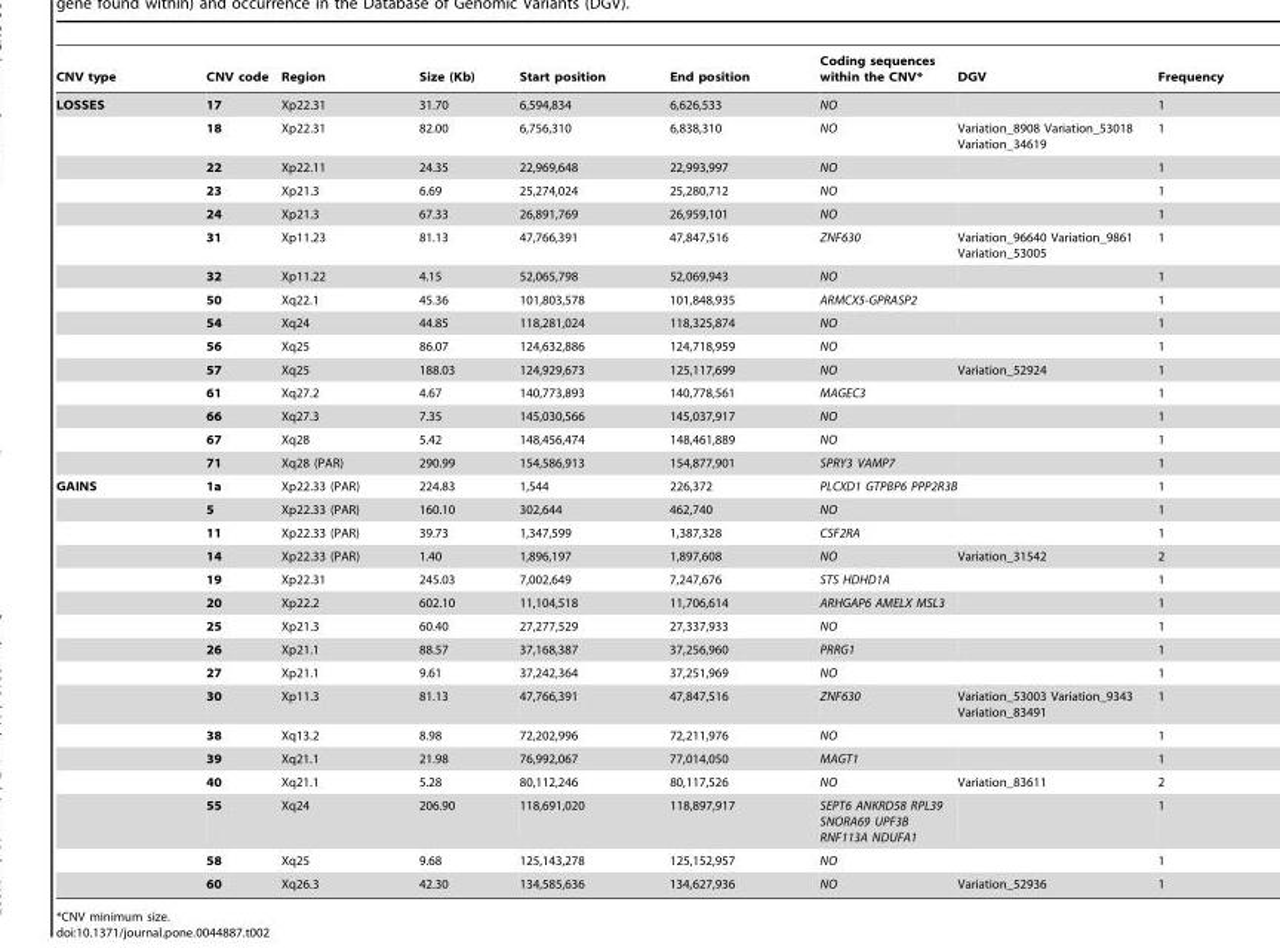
<table><thead><tr><td>CNV type</td><td>CNV code</td><td>Region</td><td>Size (Kb)</td><td>Start position</td><td>End position</td><td>Coding sequences within the CNV*</td><td>DGV</td><td>Frequency</td></tr></thead><tbody><tr><td rowspan="15">LOSSES</td><td>17</td><td>Xp22.31</td><td>31.70</td><td>6,594,834</td><td>6,626,533</td><td>NO</td><td></td><td>1</td></tr><tr><td>18</td><td>Xp22.31</td><td>82.00</td><td>6,756,310</td><td>6,838,310</td><td>NO</td><td>Variation_8908 Variation_53018 Variation_34619</td><td>1</td></tr><tr><td>22</td><td>Xp22.11</td><td>24.35</td><td>22,969,648</td><td>22,993,997</td><td>NO</td><td></td><td>1</td></tr><tr><td>23</td><td>Xp21.3</td><td>6.69</td><td>25,274,024</td><td>25,280,712</td><td>NO</td><td></td><td>1</td></tr><tr><td>24</td><td>Xp21.3</td><td>67.33</td><td>26,891,769</td><td>26,959,101</td><td>NO</td><td></td><td>1</td></tr><tr><td>31</td><td>Xp11.23</td><td>81.13</td><td>47,766,391</td><td>47,847,516</td><td>ZNF630</td><td>Variation_96640 Variation_9861 Variation_53005</td><td>1</td></tr><tr><td>32</td><td>Xp11.22</td><td>4.15</td><td>52,065,798</td><td>52,069,943</td><td>NO</td><td></td><td>1</td></tr><tr><td>50</td><td>Xq22.1</td><td>45.36</td><td>101,803,578</td><td>101,848,935</td><td>ARMCX5-GPRASP2</td><td></td><td>1</td></tr><tr><td>54</td><td>Xq24</td><td>44.85</td><td>118,281,024</td><td>118,325,874</td><td>NO</td><td></td><td>1</td></tr><tr><td>56</td><td>Xq25</td><td>86.07</td><td>124,632,886</td><td>124,718,959</td><td>NO</td><td></td><td>1</td></tr><tr><td>57</td><td>Xq25</td><td>188.03</td><td>124,929,673</td><td>125,117,699</td><td>NO</td><td>Variation_52924</td><td>1</td></tr><tr><td>61</td><td>Xq27.2</td><td>4.67</td><td>140,773,893</td><td>140,778,561</td><td>MAGEC3</td><td></td><td>1</td></tr><tr><td>66</td><td>Xq27.3</td><td>7.35</td><td>145,030,566</td><td>145,037,917</td><td>NO</td><td></td><td>1</td></tr><tr><td>67</td><td>Xq28</td><td>5.42</td><td>148,456,474</td><td>148,461,889</td><td>NO</td><td></td><td>1</td></tr><tr><td>71</td><td>Xq28 (PAR)</td><td>290.99</td><td>154,586,913</td><td>154,877,901</td><td>SPRY3 VAMP7</td><td></td><td>1</td></tr><tr><td rowspan="16">GAINS</td><td>1a</td><td>Xp22.33 (PAR)</td><td>224.83</td><td>1,544</td><td>226,372</td><td>PLCXD1 GTPBP6 PPP2R3B</td><td></td><td>1</td></tr><tr><td>5</td><td>Xp22.33 (PAR)</td><td>160.10</td><td>302,644</td><td>462,740</td><td>NO</td><td></td><td>1</td></tr><tr><td>11</td><td>Xp22.33 (PAR)</td><td>39.73</td><td>1,347,599</td><td>1,387,328</td><td>CSF2RA</td><td></td><td>1</td></tr><tr><td>14</td><td>Xp22.33 (PAR)</td><td>1.40</td><td>1,896,197</td><td>1,897,608</td><td>NO</td><td>Variation_31542</td><td>2</td></tr><tr><td>19</td><td>Xp22.31</td><td>245.03</td><td>7,002,649</td><td>7,247,676</td><td>STS HDHD1A</td><td></td><td>1</td></tr><tr><td>20</td><td>Xp22.2</td><td>602.10</td><td>11,104,518</td><td>11,706,614</td><td>ARHGAP6 AMELX MSL3</td><td></td><td>1</td></tr><tr><td>25</td><td>Xp21.3</td><td>60.40</td><td>27,277,529</td><td>27,337,933</td><td>NO</td><td></td><td>1</td></tr><tr><td>26</td><td>Xp21.1</td><td>88.57</td><td>37,168,387</td><td>37,256,960</td><td>PRRG1</td><td></td><td>1</td></tr><tr><td>27</td><td>Xp21.1</td><td>9.61</td><td>37,242,364</td><td>37,251,969</td><td>NO</td><td></td><td>1</td></tr><tr><td>30</td><td>Xp11.3</td><td>81.13</td><td>47,766,391</td><td>47,847,516</td><td>ZNF630</td><td>Variation_53003 Variation_9343 Variation_83491</td><td>1</td></tr><tr><td>38</td><td>Xq13.2</td><td>8.98</td><td>72,202,996</td><td>72,211,976</td><td>NO</td><td></td><td>1</td></tr><tr><td>39</td><td>Xq21.1</td><td>21.98</td><td>76,992,067</td><td>77,014,050</td><td>MAGT1</td><td></td><td>1</td></tr><tr><td>40</td><td>Xq21.1</td><td>5.28</td><td>80,112,246</td><td>80,117,526</td><td>NO</td><td>Variation_83611</td><td>2</td></tr><tr><td>55</td><td>Xq24</td><td>206.90</td><td>118,691,020</td><td>118,897,917</td><td>SEPT6 ANKRD58 RPL39 SNORA69 UPF3B RNF113A NDUFA1</td><td></td><td>1</td></tr><tr><td>58</td><td>Xq25</td><td>9.68</td><td>125,143,278</td><td>125,152,957</td><td>NO</td><td></td><td>1</td></tr><tr><td>60</td><td>Xq26.3</td><td>42.30</td><td>134,585,636</td><td>134,627,936</td><td>NO</td><td>Variation_52936</td><td>1</td></tr></tbody></table>